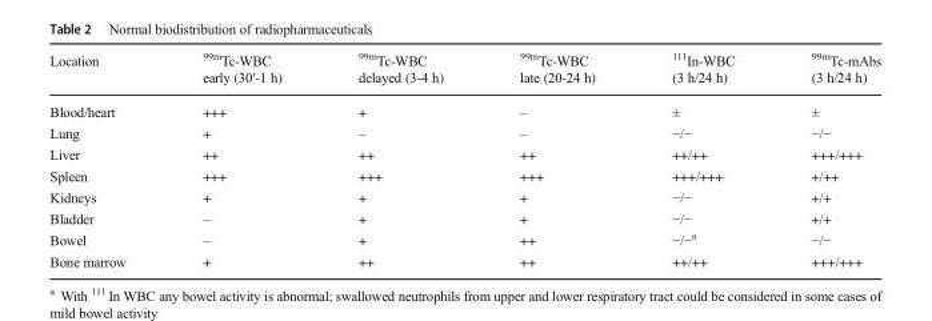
<table><thead><tr><td>Location</td><td><sup>99m</sup>Tc-WBC early (30′-1 h)</td><td><sup>99m</sup>Tc-WBC delayed (3-4 h)</td><td><sup>99m</sup>Tc-WBC late (20-24 h)</td><td><sup>111</sup>In-WBC (3 h/24 h)</td><td><sup>99m</sup>Tc-mAbs (3 h/24 h)</td></tr></thead><tbody><tr><td>Blood/heart</td><td>+++</td><td>+</td><td>–</td><td>±</td><td>±</td></tr><tr><td>Lung</td><td>+</td><td>–</td><td>–</td><td>−/−</td><td>−/−</td></tr><tr><td>Liver</td><td>++</td><td>++</td><td>++</td><td>++/++</td><td>+++/+++</td></tr><tr><td>Spleen</td><td>+++</td><td>+++</td><td>+++</td><td>+++/+++</td><td>+/++</td></tr><tr><td>Kidneys</td><td>+</td><td>+</td><td>+</td><td>−/−</td><td>+/+</td></tr><tr><td>Bladder</td><td>–</td><td>+</td><td>+</td><td>−/−</td><td>+/+</td></tr><tr><td>Bowel</td><td>–</td><td>+</td><td>++</td><td>−/−<sup>a</sup></td><td>−/−</td></tr><tr><td>Bone marrow</td><td>+</td><td>++</td><td>++</td><td>++/++</td><td>+++/+++</td></tr></tbody></table>